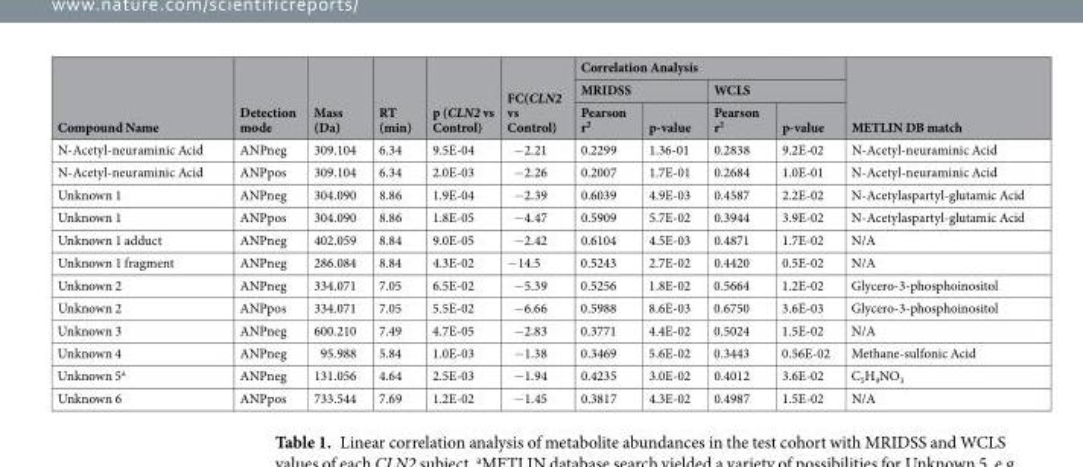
<table><thead><tr><td rowspan="3">Compound Name</td><td rowspan="3">Detection mode</td><td rowspan="3">Mass (Da)</td><td rowspan="3">RT (min)</td><td rowspan="3">p (CLN2 vs Control)</td><td rowspan="3">FC(CLN2 vs Control)</td><td colspan="4">Correlation Analysis</td><td rowspan="3">METLIN DB match</td></tr><tr><td colspan="2">MRIDSS</td><td colspan="2">WCLS</td></tr><tr><td>Pearson r<sup>2</sup></td><td>p-value</td><td>Pearson r<sup>2</sup></td><td>p-value</td></tr></thead><tbody><tr><td>N-Acetyl-neuraminic Acid</td><td>ANPneg</td><td>309.104</td><td>6.34</td><td>9.5E-04</td><td>−2.21</td><td>0.2299</td><td>1.36-01</td><td>0.2838</td><td>9.2E-02</td><td>N-Acetyl-neuraminic Acid</td></tr><tr><td>N-Acetyl-neuraminic Acid</td><td>ANPpos</td><td>309.104</td><td>6.34</td><td>2.0E-03</td><td>−2.26</td><td>0.2007</td><td>1.7E-01</td><td>0.2684</td><td>1.0E-01</td><td>N-Acetyl-neuraminic Acid</td></tr><tr><td>Unknown 1</td><td>ANPneg</td><td>304.090</td><td>8.86</td><td>1.9E-04</td><td>−2.39</td><td>0.6039</td><td>4.9E-03</td><td>0.4587</td><td>2.2E-02</td><td>N-Acetylaspartyl-glutamic Acid</td></tr><tr><td>Unknown 1</td><td>ANPpos</td><td>304.090</td><td>8.86</td><td>1.8E-05</td><td>−4.47</td><td>0.5909</td><td>5.7E-02</td><td>0.3944</td><td>3.9E-02</td><td>N-Acetylaspartyl-glutamic Acid</td></tr><tr><td>Unknown 1 adduct</td><td>ANPneg</td><td>402.059</td><td>8.84</td><td>9.0E-05</td><td>−2.42</td><td>0.6104</td><td>4.5E-03</td><td>0.4871</td><td>1.7E-02</td><td>N/A</td></tr><tr><td>Unknown 1 fragment</td><td>ANPneg</td><td>286.084</td><td>8.84</td><td>4.3E-02</td><td>−14.5</td><td>0.5243</td><td>2.7E-02</td><td>0.4420</td><td>0.5E-02</td><td>N/A</td></tr><tr><td>Unknown 2</td><td>ANPneg</td><td>334.071</td><td>7.05</td><td>6.5E-02</td><td>−5.39</td><td>0.5256</td><td>1.8E-02</td><td>0.5664</td><td>1.2E-02</td><td>Glycero-3-phosphoinositol</td></tr><tr><td>Unknown 2</td><td>ANPpos</td><td>334.071</td><td>7.05</td><td>5.5E-02</td><td>−6.66</td><td>0.5988</td><td>8.6E-03</td><td>0.6750</td><td>3.6E-03</td><td>Glycero-3-phosphoinositol</td></tr><tr><td>Unknown 3</td><td>ANPneg</td><td>600.210</td><td>7.49</td><td>4.7E-05</td><td>−2.83</td><td>0.3771</td><td>4.4E-02</td><td>0.5024</td><td>1.5E-02</td><td>N/A</td></tr><tr><td>Unknown 4</td><td>ANPneg</td><td>95.988</td><td>5.84</td><td>1.0E-03</td><td>−1.38</td><td>0.3469</td><td>5.6E-02</td><td>0.3443</td><td>0.56E-02</td><td>Methane-sulfonic Acid</td></tr><tr><td>Unknown 5<sup>a</sup></td><td>ANPneg</td><td>131.056</td><td>4.64</td><td>2.5E-03</td><td>−1.94</td><td>0.4235</td><td>3.0E-02</td><td>0.4012</td><td>3.6E-02</td><td>C<sub>5</sub>H<sub>9</sub>NO<sub>3</sub></td></tr><tr><td>Unknown 6</td><td>ANPpos</td><td>733.544</td><td>7.69</td><td>1.2E-02</td><td>−1.45</td><td>0.3817</td><td>4.3E-02</td><td>0.4987</td><td>1.5E-02</td><td>N/A</td></tr></tbody></table>